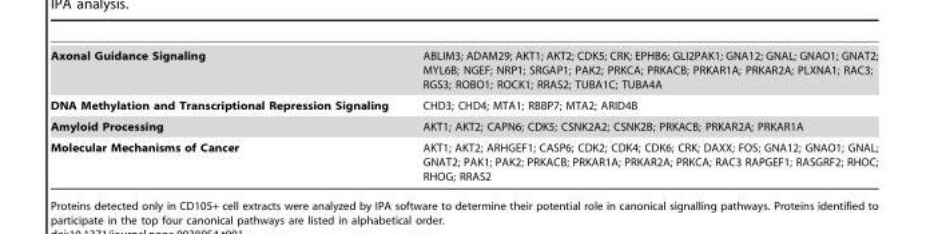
<table><tbody><tr><td>Axonal Guidance Signaling</td><td>ABLIM3; ADAM29; AKT1; AKT2; CDK5; CRK; EPHB6; GLI2PAK1; GNA12; GNAL; GNAO1; GNAT2; MYL6B; NGEF; NRP1; SRGAP1; PAK2; PRKCA; PRKACB; PRKAR1A; PRKAR2A; PLXNA1; RAC3; RGS3; ROBO1; ROCK1; RRAS2; TUBA1C; TUBA4A</td></tr><tr><td>DNA Methylation and Transcriptional Repression Signaling</td><td>CHD3; CHD4; MTA1; RBBP7; MTA2; ARID4B</td></tr><tr><td>Amyloid Processing</td><td>AKT1; AKT2; CAPN6; CDK5; CSNK2A2; CSNK2B; PRKACB; PRKAR2A; PRKAR1A</td></tr><tr><td>Molecular Mechanisms of Cancer</td><td>AKT1; AKT2; ARHGEF1; CASP6; CDK2; CDK4; CDK6; CRK; DAXX; FOS; GNA12; GNAO1; GNAL; GNAT2; PAK1; PAK2; PRKACB; PRKAR1A; PRKAR2A; PRKCA; RAC3 RAPGEF1; RASGRF2; RHOC; RHOG; RRAS2</td></tr></tbody></table>